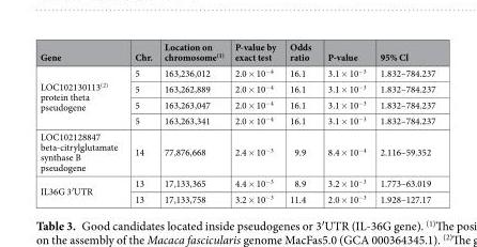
<table><thead><tr><td>Gene</td><td>Chr.</td><td>Location on chromosome<sup>(1)</sup></td><td>P-value by exact test</td><td>Odds ratio</td><td>P-value</td><td>95% Cl</td></tr></thead><tbody><tr><td rowspan="4">LOC102130113<sup>(2)</sup> protein theta pseudogene</td><td>5</td><td>163,236,012</td><td>2.0 × 10<sup>−4</sup></td><td>16.1</td><td>3.1 × 10<sup>−3</sup></td><td>1.832–784.237</td></tr><tr><td>5</td><td>163,262,889</td><td>2.0 × 10<sup>−4</sup></td><td>16.1</td><td>3.1 × 10<sup>−3</sup></td><td>1.832–784.237</td></tr><tr><td>5</td><td>163,263,047</td><td>2.0 × 10<sup>−4</sup></td><td>16.1</td><td>3.1 × 10<sup>−3</sup></td><td>1.832–784.237</td></tr><tr><td>5</td><td>163,263,341</td><td>2.0 × 10<sup>−4</sup></td><td>16.1</td><td>3.1 × 10<sup>−3</sup></td><td>1.832–784.237</td></tr><tr><td>LOC102128847 beta-citrylglutamate synthase B pseudogene</td><td>14</td><td>77,876,668</td><td>2.4 × 10<sup>−3</sup></td><td>9.9</td><td>8.4 × 10<sup>−4</sup></td><td>2.116–59.352</td></tr><tr><td rowspan="2">IL36G 3′UTR</td><td>13</td><td>17,133,365</td><td>4.4 × 10<sup>−3</sup></td><td>8.9</td><td>3.2 × 10<sup>−3</sup></td><td>1.773–63.019</td></tr><tr><td>13</td><td>17,133,758</td><td>3.2 × 10<sup>−3</sup></td><td>11.4</td><td>2.0 × 10<sup>−3</sup></td><td>1.928–127.17</td></tr></tbody></table>